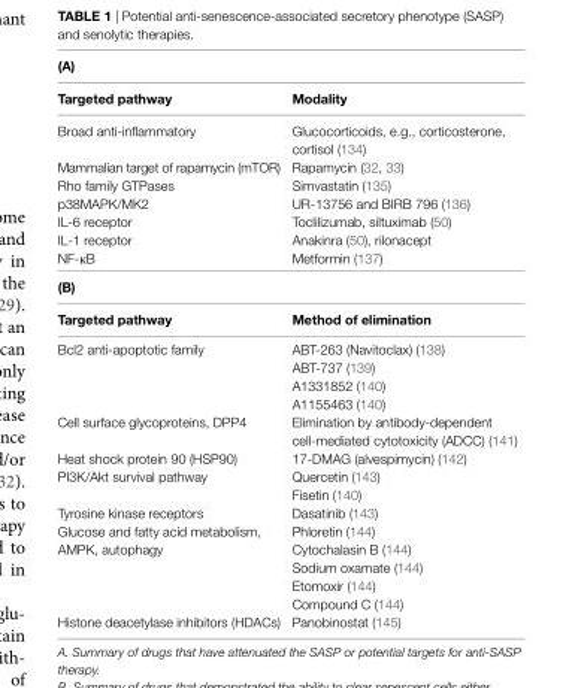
<table><tbody><tr><td colspan="2">(A)</td></tr><tr><td>Targeted pathway</td><td>Modality</td></tr><tr><td>Broad anti-inflammatory</td><td>Glucocorticoids, e.g., corticosterone, cortisol (134)</td></tr><tr><td>Mammalian target of rapamycin (mTOR)</td><td>Rapamycin (32, 33)</td></tr><tr><td>Rho family GTPases</td><td>Simvastatin (135)</td></tr><tr><td>p38MAPK/MK2</td><td>UR-13756 and BIRB 796 (136)</td></tr><tr><td>IL-6 receptor</td><td>Toclilizumab, siltuximab (50)</td></tr><tr><td>IL-1 receptor</td><td>Anakinra (50), rilonacept</td></tr><tr><td>NF-кB</td><td>Metformin (137)</td></tr><tr><td colspan="2">(B)</td></tr><tr><td>Targeted pathway</td><td>Method of elimination</td></tr><tr><td rowspan="4">Bcl2 anti-apoptotic family</td><td>ABT-263 (Navitoclax) (138)</td></tr><tr><td>ABT-737 (139)</td></tr><tr><td>A1331852 (140)</td></tr><tr><td>A1155463 (140)</td></tr><tr><td>Cell surface glycoproteins, DPP4</td><td>Elimination by antibody-dependent cell-mediated cytotoxicity (ADCC) (141)</td></tr><tr><td>Heat shock protein 90 (HSP90)</td><td>17-DMAG (alvespimycin) (142)</td></tr><tr><td rowspan="2">PI3K/Akt survival pathway</td><td>Quercetin (143)</td></tr><tr><td>Fisetin (140)</td></tr><tr><td>Tyrosine kinase receptors</td><td>Dasatinib (143)</td></tr><tr><td rowspan="5">Glucose and fatty acid metabolism, AMPK, autophagy</td><td>Phloretin (144)</td></tr><tr><td>Cytochalasin B (144)</td></tr><tr><td>Sodium oxamate (144)</td></tr><tr><td>Etomoxir (144)</td></tr><tr><td>Compound C (144)</td></tr><tr><td>Histone deacetylase inhibitors (HDACs)</td><td>Panobinostat (145)</td></tr></tbody></table>